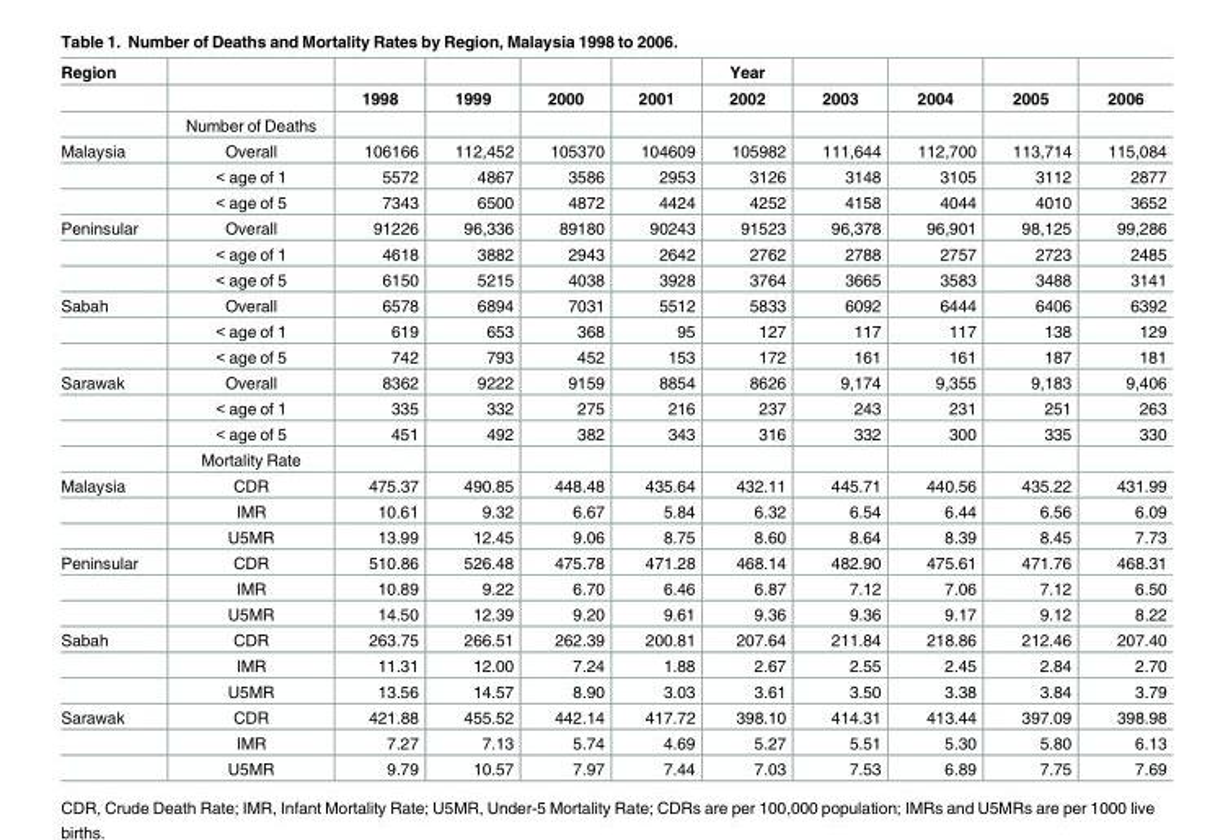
<table><thead><tr><td rowspan="2">Region</td><td rowspan="2"></td><td rowspan="2">1998</td><td rowspan="2">1999</td><td rowspan="2">2000</td><td rowspan="2">2001</td><td rowspan="2">Year 2002</td><td rowspan="2">2003</td><td rowspan="2">2004</td><td rowspan="2">2005</td><td rowspan="2">2006</td></tr><tr></tr></thead><tbody><tr><td></td><td>Number of Deaths</td><td></td><td></td><td></td><td></td><td></td><td></td><td></td><td></td><td></td></tr><tr><td rowspan="3">Malaysia</td><td>Overall</td><td>106166</td><td>112,452</td><td>105370</td><td>104609</td><td>105982</td><td>111,644</td><td>112,700</td><td>113,714</td><td>115,084</td></tr><tr><td>&lt; age of 1</td><td>5572</td><td>4867</td><td>3586</td><td>2953</td><td>3126</td><td>3148</td><td>3105</td><td>3112</td><td>2877</td></tr><tr><td>&lt; age of 5</td><td>7343</td><td>6500</td><td>4872</td><td>4424</td><td>4252</td><td>4158</td><td>4044</td><td>4010</td><td>3652</td></tr><tr><td rowspan="3">Peninsular</td><td>Overall</td><td>91226</td><td>96,336</td><td>89180</td><td>90243</td><td>91523</td><td>96,378</td><td>96,901</td><td>98,125</td><td>99,286</td></tr><tr><td>&lt; age of 1</td><td>4618</td><td>3882</td><td>2943</td><td>2642</td><td>2762</td><td>2788</td><td>2757</td><td>2723</td><td>2485</td></tr><tr><td>&lt; age of 5</td><td>6150</td><td>5215</td><td>4038</td><td>3928</td><td>3764</td><td>3665</td><td>3583</td><td>3488</td><td>3141</td></tr><tr><td rowspan="3">Sabah</td><td>Overall</td><td>6578</td><td>6894</td><td>7031</td><td>5512</td><td>5833</td><td>6092</td><td>6444</td><td>6406</td><td>6392</td></tr><tr><td>&lt; age of 1</td><td>619</td><td>653</td><td>368</td><td>95</td><td>127</td><td>117</td><td>117</td><td>138</td><td>129</td></tr><tr><td>&lt; age of 5</td><td>742</td><td>793</td><td>452</td><td>153</td><td>172</td><td>161</td><td>161</td><td>187</td><td>181</td></tr><tr><td rowspan="4">Sarawak</td><td>Overall</td><td>8362</td><td>9222</td><td>9159</td><td>8854</td><td>8626</td><td>9,174</td><td>9,355</td><td>9,183</td><td>9,406</td></tr><tr><td>&lt; age of 1</td><td>335</td><td>332</td><td>275</td><td>216</td><td>237</td><td>243</td><td>231</td><td>251</td><td>263</td></tr><tr><td>&lt; age of 5</td><td>451</td><td>492</td><td>382</td><td>343</td><td>316</td><td>332</td><td>300</td><td>335</td><td>330</td></tr><tr><td>Mortality Rate</td><td></td><td></td><td></td><td></td><td></td><td></td><td></td><td></td><td></td></tr><tr><td rowspan="3">Malaysia</td><td>CDR</td><td>475.37</td><td>490.85</td><td>448.48</td><td>435.64</td><td>432.11</td><td>445.71</td><td>440.56</td><td>435.22</td><td>431.99</td></tr><tr><td>IMR</td><td>10.61</td><td>9.32</td><td>6.67</td><td>5.84</td><td>6.32</td><td>6.54</td><td>6.44</td><td>6.56</td><td>6.09</td></tr><tr><td>U5MR</td><td>13.99</td><td>12.45</td><td>9.06</td><td>8.75</td><td>8.60</td><td>8.64</td><td>8.39</td><td>8.45</td><td>7.73</td></tr><tr><td rowspan="3">Peninsular</td><td>CDR</td><td>510.86</td><td>526.48</td><td>475.78</td><td>471.28</td><td>468.14</td><td>482.90</td><td>475.61</td><td>471.76</td><td>468.31</td></tr><tr><td>IMR</td><td>10.89</td><td>9.22</td><td>6.70</td><td>6.46</td><td>6.87</td><td>7.12</td><td>7.06</td><td>7.12</td><td>6.50</td></tr><tr><td>U5MR</td><td>14.50</td><td>12.39</td><td>9.20</td><td>9.61</td><td>9.36</td><td>9.36</td><td>9.17</td><td>9.12</td><td>8.22</td></tr><tr><td rowspan="3">Sabah</td><td>CDR</td><td>263.75</td><td>266.51</td><td>262.39</td><td>200.81</td><td>207.64</td><td>211.84</td><td>218.86</td><td>212.46</td><td>207.40</td></tr><tr><td>IMR</td><td>11.31</td><td>12.00</td><td>7.24</td><td>1.88</td><td>2.67</td><td>2.55</td><td>2.45</td><td>2.84</td><td>2.70</td></tr><tr><td>U5MR</td><td>13.56</td><td>14.57</td><td>8.90</td><td>3.03</td><td>3.61</td><td>3.50</td><td>3.38</td><td>3.84</td><td>3.79</td></tr><tr><td rowspan="3">Sarawak</td><td>CDR</td><td>421.88</td><td>455.52</td><td>442.14</td><td>417.72</td><td>398.10</td><td>414.31</td><td>413.44</td><td>397.09</td><td>398.98</td></tr><tr><td>IMR</td><td>7.27</td><td>7.13</td><td>5.74</td><td>4.69</td><td>5.27</td><td>5.51</td><td>5.30</td><td>5.80</td><td>6.13</td></tr><tr><td>U5MR</td><td>9.79</td><td>10.57</td><td>7.97</td><td>7.44</td><td>7.03</td><td>7.53</td><td>6.89</td><td>7.75</td><td>7.69</td></tr></tbody></table>